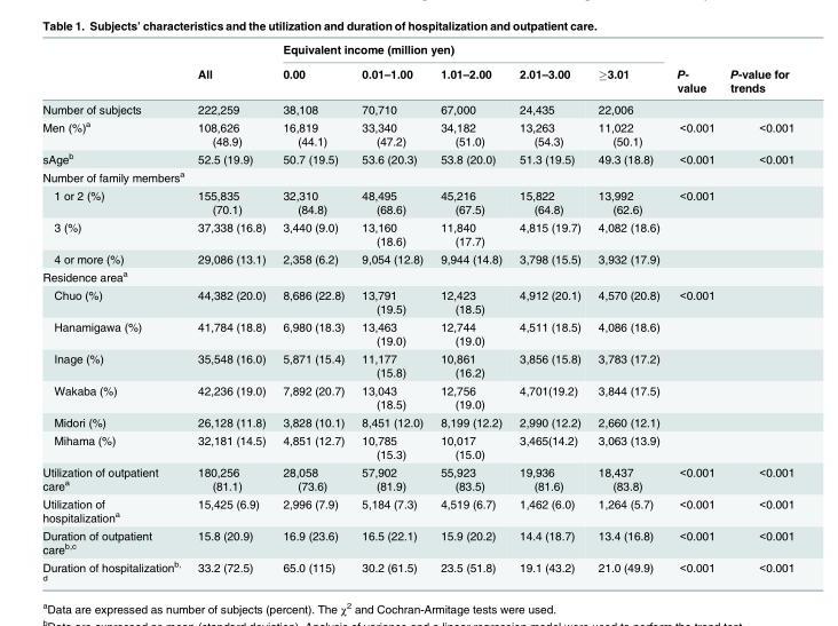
<table><thead><tr><td rowspan="2"></td><td rowspan="2">All</td><td colspan="5">Equivalent income (million yen)</td><td rowspan="2">P- value</td><td rowspan="2">P-value for trends</td></tr><tr><td>0.00</td><td>0.01–1.00</td><td>1.01–2.00</td><td>2.01–3.00</td><td>≥3.01</td></tr></thead><tbody><tr><td>Number of subjects</td><td>222,259</td><td>38,108</td><td>70,710</td><td>67,000</td><td>24,435</td><td>22,006</td><td></td><td></td></tr><tr><td>Men (%)<sup>a</sup></td><td>108,626 (48.9)</td><td>16,819 (44.1)</td><td>33,340 (47.2)</td><td>34,182 (51.0)</td><td>13,263 (54.3)</td><td>11,022 (50.1)</td><td>&lt;0.001</td><td>&lt;0.001</td></tr><tr><td>sAge<sup>b</sup></td><td>52.5 (19.9)</td><td>50.7 (19.5)</td><td>53.6 (20.3)</td><td>53.8 (20.0)</td><td>51.3 (19.5)</td><td>49.3 (18.8)</td><td>&lt;0.001</td><td>&lt;0.001</td></tr><tr><td colspan="9">Number of family members<sup>a</sup></td></tr><tr><td>1 or 2 (%)</td><td>155,835 (70.1)</td><td>32,310 (84.8)</td><td>48,495 (68.6)</td><td>45,216 (67.5)</td><td>15,822 (64.8)</td><td>13,992 (62.6)</td><td>&lt;0.001</td><td></td></tr><tr><td>3 (%)</td><td>37,338 (16.8)</td><td>3,440 (9.0)</td><td>13,160 (18.6)</td><td>11,840 (17.7)</td><td>4,815 (19.7)</td><td>4,082 (18.6)</td><td></td><td></td></tr><tr><td>4 or more (%)</td><td>29,086 (13.1)</td><td>2,358 (6.2)</td><td>9,054 (12.8)</td><td>9,944 (14.8)</td><td>3,798 (15.5)</td><td>3,932 (17.9)</td><td></td><td></td></tr><tr><td colspan="9">Residence area<sup>a</sup></td></tr><tr><td>Chuo (%)</td><td>44,382 (20.0)</td><td>8,686 (22.8)</td><td>13,791 (19.5)</td><td>12,423 (18.5)</td><td>4,912 (20.1)</td><td>4,570 (20.8)</td><td>&lt;0.001</td><td></td></tr><tr><td>Hanamigawa (%)</td><td>41,784 (18.8)</td><td>6,980 (18.3)</td><td>13,463 (19.0)</td><td>12,744 (19.0)</td><td>4,511 (18.5)</td><td>4,086 (18.6)</td><td></td><td></td></tr><tr><td>Inage (%)</td><td>35,548 (16.0)</td><td>5,871 (15.4)</td><td>11,177 (15.8)</td><td>10,861 (16.2)</td><td>3,856 (15.8)</td><td>3,783 (17.2)</td><td></td><td></td></tr><tr><td>Wakaba (%)</td><td>42,236 (19.0)</td><td>7,892 (20.7)</td><td>13,043 (18.5)</td><td>12,756 (19.0)</td><td>4,701(19.2)</td><td>3,844 (17.5)</td><td></td><td></td></tr><tr><td>Midori (%)</td><td>26,128 (11.8)</td><td>3,828 (10.1)</td><td>8,451 (12.0)</td><td>8,199 (12.2)</td><td>2,990 (12.2)</td><td>2,660 (12.1)</td><td></td><td></td></tr><tr><td>Mihama (%)</td><td>32,181 (14.5)</td><td>4,851 (12.7)</td><td>10,785 (15.3)</td><td>10,017 (15.0)</td><td>3,465(14.2)</td><td>3,063 (13.9)</td><td></td><td></td></tr><tr><td>Utilization of outpatient care<sup>a</sup></td><td>180,256 (81.1)</td><td>28,058 (73.6)</td><td>57,902 (81.9)</td><td>55,923 (83.5)</td><td>19,936 (81.6)</td><td>18,437 (83.8)</td><td>&lt;0.001</td><td>&lt;0.001</td></tr><tr><td>Utilization of hospitalization<sup>a</sup></td><td>15,425 (6.9)</td><td>2,996 (7.9)</td><td>5,184 (7.3)</td><td>4,519 (6.7)</td><td>1,462 (6.0)</td><td>1,264 (5.7)</td><td>&lt;0.001</td><td>&lt;0.001</td></tr><tr><td>Duration of outpatient care<sup>b,c</sup></td><td>15.8 (20.9)</td><td>16.9 (23.6)</td><td>16.5 (22.1)</td><td>15.9 (20.2)</td><td>14.4 (18.7)</td><td>13.4 (16.8)</td><td>&lt;0.001</td><td>&lt;0.001</td></tr><tr><td>Duration of hospitalization<sup>b, d</sup></td><td>33.2 (72.5)</td><td>65.0 (115)</td><td>30.2 (61.5)</td><td>23.5 (51.8)</td><td>19.1 (43.2)</td><td>21.0 (49.9)</td><td>&lt;0.001</td><td>&lt;0.001</td></tr></tbody></table>